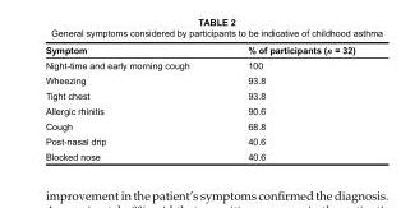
<table><thead><tr><td>Symptom</td><td>% of participants (n = 32)</td></tr></thead><tbody><tr><td>Night-time and early morning cough</td><td>100</td></tr><tr><td>Wheezing</td><td>93.8</td></tr><tr><td>Tight chest</td><td>93.8</td></tr><tr><td>Allergic rhinitis</td><td>90.6</td></tr><tr><td>Cough</td><td>68.8</td></tr><tr><td>Post-nasal drip</td><td>40.6</td></tr><tr><td>Blocked nose</td><td>40.6</td></tr></tbody></table>